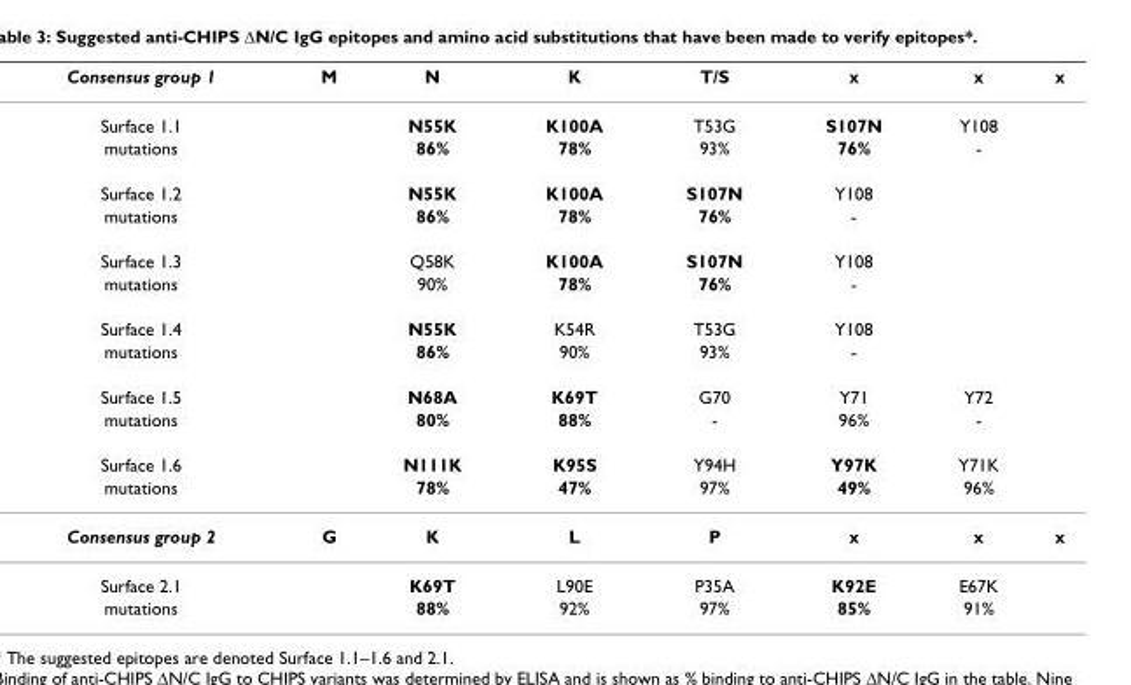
<table><thead><tr><td>Consensus group 1</td><td>M</td><td>N</td><td>K</td><td>T/S</td><td>x</td><td>x</td><td>x</td></tr></thead><tbody><tr><td>Surface 1.1</td><td></td><td>N55K</td><td>K100A</td><td>T53G</td><td>S107N</td><td>Y108</td><td></td></tr><tr><td>mutations</td><td></td><td>86%</td><td>78%</td><td>93%</td><td>76%</td><td>-</td><td></td></tr><tr><td>Surface 1.2</td><td></td><td>N55K</td><td>K100A</td><td>S107N</td><td>Y108</td><td></td><td></td></tr><tr><td>mutations</td><td></td><td>86%</td><td>78%</td><td>76%</td><td>-</td><td></td><td></td></tr><tr><td>Surface 1.3</td><td></td><td>Q58K</td><td>K100A</td><td>S107N</td><td>Y108</td><td></td><td></td></tr><tr><td>mutations</td><td></td><td>90%</td><td>78%</td><td>76%</td><td>-</td><td></td><td></td></tr><tr><td>Surface 1.4</td><td></td><td>N55K</td><td>K54R</td><td>T53G</td><td>Y108</td><td></td><td></td></tr><tr><td>mutations</td><td></td><td>86%</td><td>90%</td><td>93%</td><td>-</td><td></td><td></td></tr><tr><td>Surface 1.5</td><td></td><td>N68A</td><td>K69T</td><td>G70</td><td>Y71</td><td>Y72</td><td></td></tr><tr><td>mutations</td><td></td><td>80%</td><td>88%</td><td>-</td><td>96%</td><td>-</td><td></td></tr><tr><td>Surface 1.6</td><td></td><td>N111K</td><td>K95S</td><td>Y94H</td><td>Y97K</td><td>Y71K</td><td></td></tr><tr><td>mutations</td><td></td><td>78%</td><td>47%</td><td>97%</td><td>49%</td><td>96%</td><td></td></tr><tr><td>Consensus group 2</td><td>G</td><td>K</td><td>L</td><td>P</td><td>x</td><td>x</td><td>x</td></tr><tr><td>Surface 2.1</td><td></td><td>K69T</td><td>L90E</td><td>P35A</td><td>K92E</td><td>E67K</td><td></td></tr><tr><td>mutations</td><td></td><td>88%</td><td>92%</td><td>97%</td><td>85%</td><td>91%</td><td></td></tr></tbody></table>